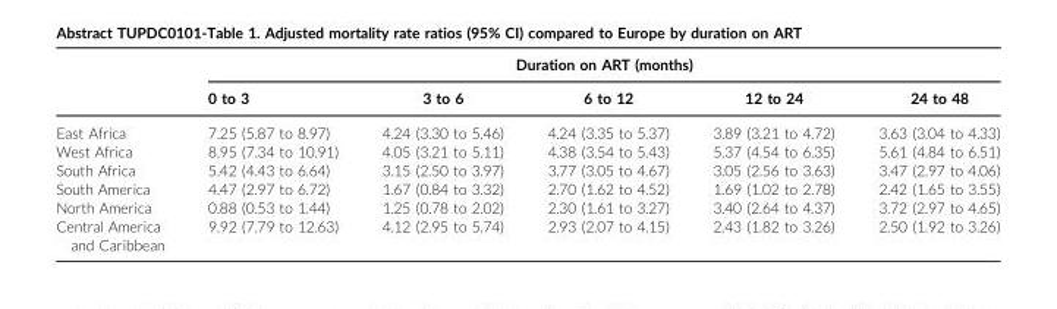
<table><thead><tr><td rowspan="2"></td><td colspan="5">Duration on ART (months)</td></tr><tr><td>0 to 3</td><td>3 to 6</td><td>6 to 12</td><td>12 to 24</td><td>24 to 48</td></tr></thead><tbody><tr><td>East Africa</td><td>7.25 (5.87 to 8.97)</td><td>4.24 (3.30 to 5.46)</td><td>4.24 (3.35 to 5.37)</td><td>3.89 (3.21 to 4.72)</td><td>3.63 (3.04 to 4.33)</td></tr><tr><td>West Africa</td><td>8.95 (7.34 to 10.91)</td><td>4.05 (3.21 to 5.11)</td><td>4.38 (3.54 to 5.43)</td><td>5.37 (4.54 to 6.35)</td><td>5.61 (4.84 to 6.51)</td></tr><tr><td>South Africa</td><td>5.42 (4.43 to 6.64)</td><td>3.15 (2.50 to 3.97)</td><td>3.77 (3.05 to 4.67)</td><td>3.05 (2.56 to 3.63)</td><td>3.47 (2.97 to 4.06)</td></tr><tr><td>South America</td><td>4.47 (2.97 to 6.72)</td><td>1.67 (0.84 to 3.32)</td><td>2.70 (1.62 to 4.52)</td><td>1.69 (1.02 to 2.78)</td><td>2.42 (1.65 to 3.55)</td></tr><tr><td>North America</td><td>0.88 (0.53 to 1.44)</td><td>1.25 (0.78 to 2.02)</td><td>2.30 (1.61 to 3.27)</td><td>3.40 (2.64 to 4.37)</td><td>3.72 (2.97 to 4.65)</td></tr><tr><td>Central America and Caribbean</td><td>9.92 (7.79 to 12.63)</td><td>4.12 (2.95 to 5.74)</td><td>2.93 (2.07 to 4.15)</td><td>2.43 (1.82 to 3.26)</td><td>2.50 (1.92 to 3.26)</td></tr></tbody></table>